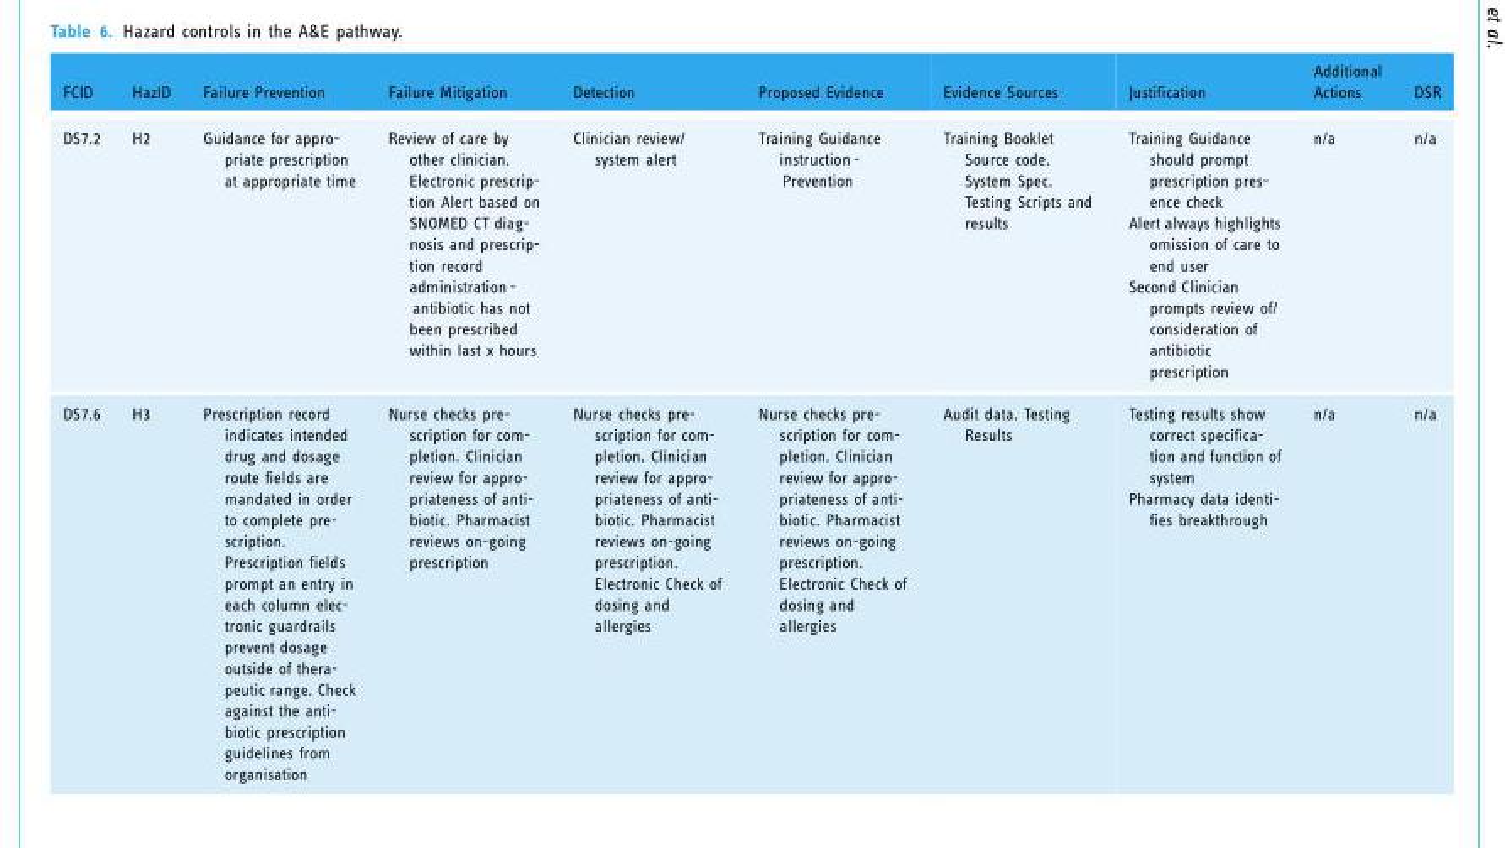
<table><thead><tr><td>FCID</td><td>HazID</td><td>Failure Prevention</td><td>Failure Mitigation</td><td>Detection</td><td>Proposed Evidence</td><td>Evidence Sources</td><td>Justification</td><td>Additional Actions</td><td>DSR</td></tr></thead><tbody><tr><td>DS7.2</td><td>H2</td><td>Guidance for appro- priate prescription at appropriate time</td><td>Review of care by other clinician. Electronic prescrip- tion Alert based on SNOMED CT diag- nosis and prescrip- tion record administration - antibiotic has not been prescribed within last x hours</td><td>Clinician review/ system alert</td><td>Training Guidance instruction - Prevention</td><td>Training Booklet Source code. System Spec. Testing Scripts and results</td><td>Training Guidance should prompt prescription pres- ence check Alert always highlights omission of care to end user Second Clinician prompts review of/ consideration of antibiotic prescription</td><td>n/a</td><td>n/a</td></tr><tr><td>DS7.6</td><td>H3</td><td>Prescription record indicates intended drug and dosage route fields are mandated in order to complete pre- scription. Prescription fields prompt an entry in each column elec- tronic guardrails prevent dosage outside of thera- peutic range. Check against the anti- biotic prescription guidelines from organisation</td><td>Nurse checks pre- scription for com- pletion. Clinician review for appro- priateness of anti- biotic. Pharmacist reviews on-going prescription</td><td>Nurse checks pre- scription for com- pletion. Clinician review for appro- priateness of anti- biotic. Pharmacist reviews on-going prescription. Electronic Check of dosing and allergies</td><td>Nurse checks pre- scription for com- pletion. Clinician review for appro- priateness of anti- biotic. Pharmacist reviews on-going prescription. Electronic Check of dosing and allergies</td><td>Audit data. Testing Results</td><td>Testing results show correct specifica- tion and function of system Pharmacy data identi- fies breakthrough</td><td>n/a</td><td>n/a</td></tr></tbody></table>